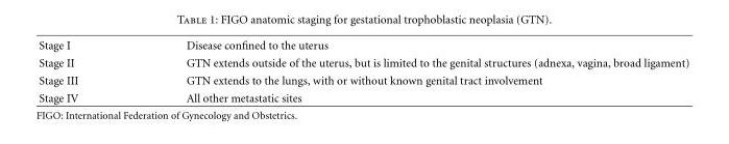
<table><tbody><tr><td>Stage I</td><td>Disease confined to the uterus</td></tr><tr><td>Stage II</td><td>GTN extends outside of the uterus, but is limited to the genital structures (adnexa, vagina, broad ligament)</td></tr><tr><td>Stage III</td><td>GTN extends to the lungs, with or without known genital tract involvement</td></tr><tr><td>Stage IV</td><td>All other metastatic sites</td></tr></tbody></table>